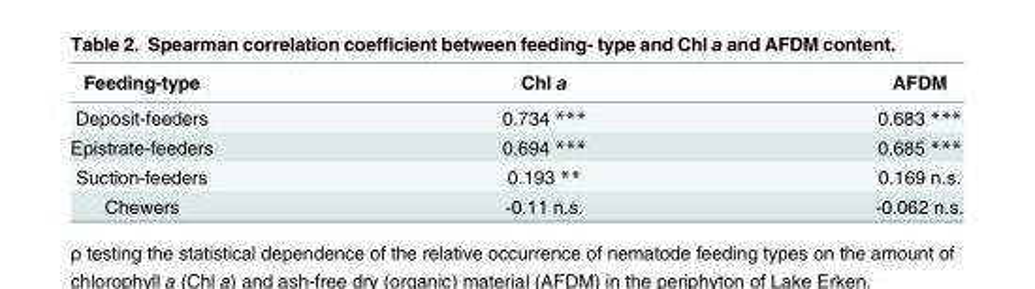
<table><thead><tr><td>Feeding-type</td><td>Chl a</td><td>AFDM</td></tr></thead><tbody><tr><td>Deposit-feeders</td><td>0.734 ***</td><td>0.683 ***</td></tr><tr><td>Epistrate-feeders</td><td>0.694 ***</td><td>0.685 ***</td></tr><tr><td>Suction-feeders</td><td>0.193 **</td><td>0.169 n.s.</td></tr><tr><td>Chewers</td><td>-0.11 n.s.</td><td>-0.062 n.s.</td></tr></tbody></table>